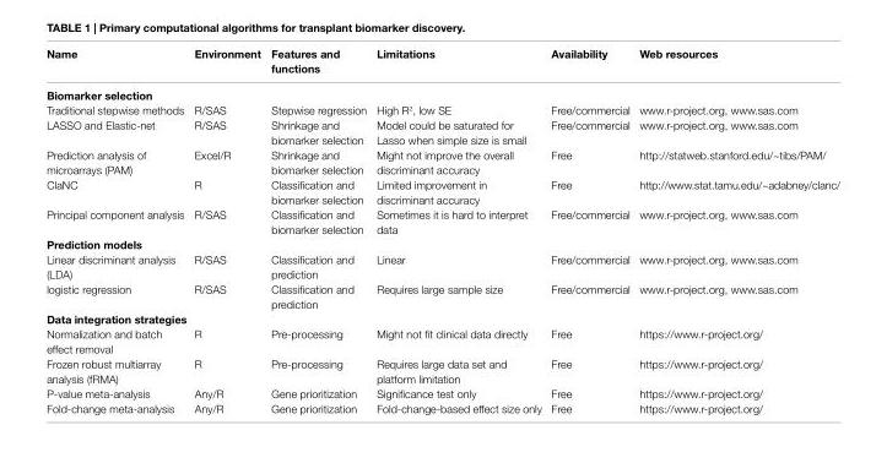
<table><thead><tr><td>Name</td><td>environment</td><td>Features and functions</td><td>Limitations</td><td>Availability</td><td>web resources</td></tr></thead><tbody><tr><td colspan="6">Biomarker selection</td></tr><tr><td>Traditional stepwise methods</td><td>R/SAS</td><td>Stepwise regression</td><td>High R<sup>2</sup>, low SE</td><td>Free/commercial</td><td>www.r-project.org, www.sas.com</td></tr><tr><td>LASSO and Elastic-net</td><td>R/SAS</td><td>Shrinkage and biomarker selection</td><td>Model could be saturated for Lasso when simple size is small</td><td>Free/commercial</td><td>www.r-project.org, www.sas.com</td></tr><tr><td>Prediction analysis of microarrays (PAM)</td><td>Excel/R</td><td>Shrinkage and biomarker selection</td><td>Might not improve the overall discriminant accuracy</td><td>Free</td><td>http://statweb.stanford.edu/~tibs/PAM/</td></tr><tr><td>ClaNC</td><td>R</td><td>Classification and biomarker selection</td><td>Limited improvement in discriminant accuracy</td><td>Free</td><td>http://www.stat.tamu.edu/~adabney/clanc/</td></tr><tr><td>Principal component analysis</td><td>R/SAS</td><td>Classification and biomarker selection</td><td>Sometimes it is hard to interpret data</td><td>Free/commercial</td><td>www.r-project.org, www.sas.com</td></tr><tr><td colspan="6">Prediction models</td></tr><tr><td>Linear discriminant analysis (LDA)</td><td>R/SAS</td><td>Classification and prediction</td><td>Linear</td><td>Free/commercial</td><td>www.r-project.org, www.sas.com</td></tr><tr><td>logistic regression</td><td>R/SAS</td><td>Classification and prediction</td><td>Requires large sample size</td><td>Free/commercial</td><td>www.r-project.org, www.sas.com</td></tr><tr><td colspan="6">Data integration strategies</td></tr><tr><td>Normalization and batch effect removal</td><td>R</td><td>Pre-processing</td><td>Might not fit clinical data directly</td><td>Free</td><td>https://www.r-project.org/</td></tr><tr><td>Frozen robust multiarray analysis (fRMA)</td><td>R</td><td>Pre-processing</td><td>Requires large data set and platform limitation</td><td>Free</td><td>https://www.r-project.org/</td></tr><tr><td>P-value meta-analysis</td><td>Any/R</td><td>Gene prioritization</td><td>Significance test only</td><td>Free</td><td>https://www.r-project.org/</td></tr><tr><td>Fold-change meta-analysis</td><td>Any/R</td><td>Gene prioritization</td><td>Fold-change-based effect size only</td><td>Free</td><td>https://www.r-project.org/</td></tr></tbody></table>